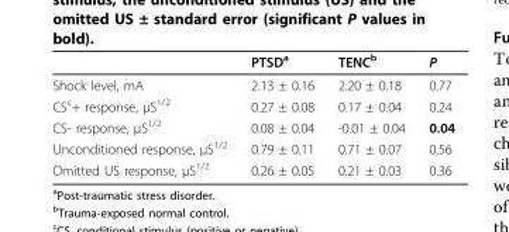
<table><thead><tr><td></td><td>PTSD<sup>a</sup></td><td>TENC<sup>b</sup></td><td>P</td></tr></thead><tbody><tr><td>Shock level, mA</td><td>2.13 ± 0.16</td><td>2.20 ± 0.18</td><td>0.77</td></tr><tr><td>CS<sup>c</sup>+ response, μS<sup>1/2</sup></td><td>0.27 ± 0.08</td><td>0.17 ± 0.04</td><td>0.24</td></tr><tr><td>CS- response, μS<sup>1/2</sup></td><td>0.08 ± 0.04</td><td>-0.01 ± 0.04</td><td>0.04</td></tr><tr><td>Unconditioned response, μS<sup>1/2</sup></td><td>0.79 ± 0.11</td><td>0.71 ± 0.07</td><td>0.56</td></tr><tr><td>Omitted US response, μS<sup>1/2</sup></td><td>0.26 ± 0.05</td><td>0.21 ± 0.03</td><td>0.36</td></tr></tbody></table>